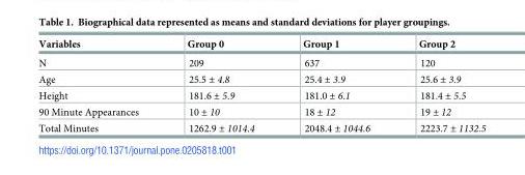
<table><thead><tr><td>Variables</td><td>Group 0</td><td>Group 1</td><td>Group 2</td></tr></thead><tbody><tr><td>N</td><td>209</td><td>637</td><td>120</td></tr><tr><td>Age</td><td>25.5 ± 4.8</td><td>25.4 ± 3.9</td><td>25.6 ± 3.9</td></tr><tr><td>Height</td><td>181.6 ± 5.9</td><td>181.0 ± 6.1</td><td>181.4 ± 5.5</td></tr><tr><td>90 Minute Appearances</td><td>10 ± 10</td><td>18 ± 12</td><td>19 ± 12</td></tr><tr><td>Total Minutes</td><td>1262.9 ± 1014.4</td><td>2048.4 ± 1044.6</td><td>2223.7 ± 1132.5</td></tr></tbody></table>